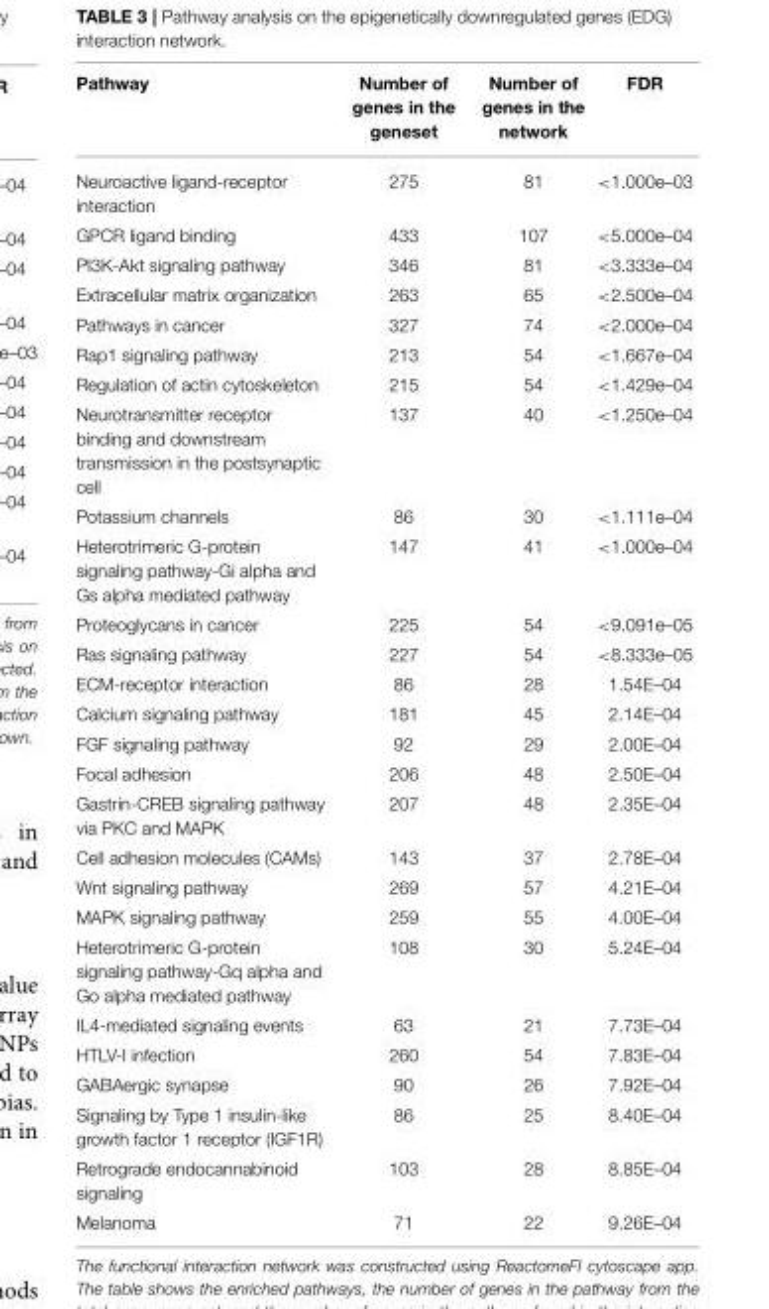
<table><thead><tr><td>Pathway</td><td>Number of genes in the geneset</td><td>Number of genes in the network</td><td>FDR</td></tr></thead><tbody><tr><td>Neuroactive ligand-receptor interaction</td><td>275</td><td>81</td><td>&lt;1.000e–03</td></tr><tr><td>GPCR ligand binding</td><td>433</td><td>107</td><td>&lt;5.000e–04</td></tr><tr><td>PI3K-Akt signaling pathway</td><td>346</td><td>81</td><td>&lt;3.333e–04</td></tr><tr><td>Extracellular matrix organization</td><td>263</td><td>65</td><td>&lt;2.500e–04</td></tr><tr><td>Pathways in cancer</td><td>327</td><td>74</td><td>&lt;2.000e–04</td></tr><tr><td>Rap1 signaling pathway</td><td>213</td><td>54</td><td>&lt;1.667e–04</td></tr><tr><td>Regulation of actin cytoskeleton</td><td>215</td><td>54</td><td>&lt;1.429e–04</td></tr><tr><td>Neurotransmitter receptor binding and downstream transmission in the postsynaptic cell</td><td>137</td><td>40</td><td>&lt;1.250e–04</td></tr><tr><td>Potassium channels</td><td>86</td><td>30</td><td>&lt;1.111e–04</td></tr><tr><td>Heterotrimeric G-protein signaling pathway-Gi alpha and Gs alpha mediated pathway</td><td>147</td><td>41</td><td>&lt;1.000e–04</td></tr><tr><td>Proteoglycans in cancer</td><td>225</td><td>54</td><td>&lt;9.091e–05</td></tr><tr><td>Ras signaling pathway</td><td>227</td><td>54</td><td>&lt;8.333e–05</td></tr><tr><td>ECM-receptor interaction</td><td>86</td><td>28</td><td>1.54E–04</td></tr><tr><td>Calcium signaling pathway</td><td>181</td><td>45</td><td>2.14E–04</td></tr><tr><td>FGF signaling pathway</td><td>92</td><td>29</td><td>2.00E–04</td></tr><tr><td>Focal adhesion</td><td>206</td><td>48</td><td>2.50E–04</td></tr><tr><td>Gastrin-CREB signaling pathway via PKC and MAPK</td><td>207</td><td>48</td><td>2.35E–04</td></tr><tr><td>Cell adhesion molecules (CAMs)</td><td>143</td><td>37</td><td>2.78E–04</td></tr><tr><td>Wnt signaling pathway</td><td>269</td><td>57</td><td>4.21E–04</td></tr><tr><td>MAPK signaling pathway</td><td>259</td><td>55</td><td>4.00E–04</td></tr><tr><td>Heterotrimeric G-protein signaling pathway-Gq alpha and Go alpha mediated pathway</td><td>108</td><td>30</td><td>5.24E–04</td></tr><tr><td>IL4-mediated signaling events</td><td>63</td><td>21</td><td>7.73E–04</td></tr><tr><td>HTLV-I infection</td><td>260</td><td>54</td><td>7.83E–04</td></tr><tr><td>GABAergic synapse</td><td>90</td><td>26</td><td>7.92E–04</td></tr><tr><td>Signaling by Type 1 insulin-like growth factor 1 receptor (IGF1R)</td><td>86</td><td>25</td><td>8.40E–04</td></tr><tr><td>Retrograde endocannabinoid signaling</td><td>103</td><td>28</td><td>8.85E–04</td></tr><tr><td>Melanoma</td><td>71</td><td>22</td><td>9.26E–04</td></tr></tbody></table>